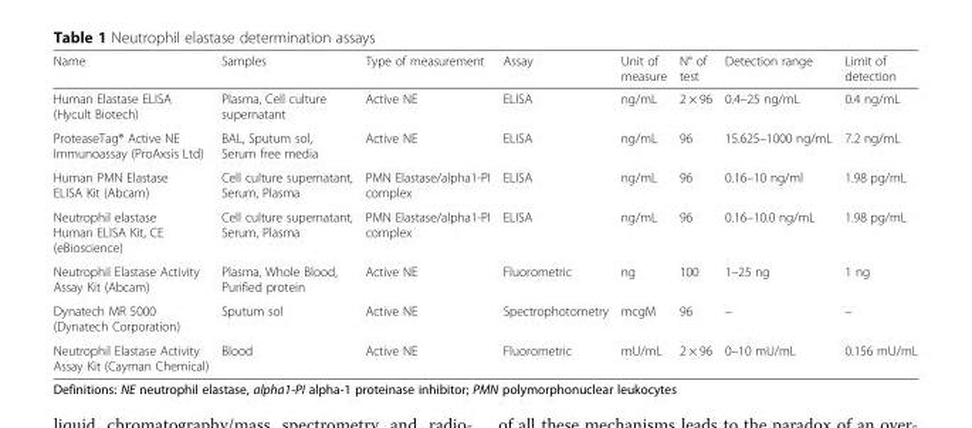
<table><thead><tr><td>Name</td><td>Samples</td><td>Type of measurement</td><td>Assay</td><td>Unit of measure</td><td>N° of test</td><td>Detection range</td><td>Limit of detection</td></tr></thead><tbody><tr><td>Human Elastase ELISA (Hycult Biotech)</td><td>Plasma, Cell culture supernatant</td><td>Active NE</td><td>ELISA</td><td>ng/mL</td><td>2 × 96</td><td>0.4–25 ng/mL</td><td>0.4 ng/mL</td></tr><tr><td>ProteaseTag® Active NE Immunoassay (ProAxsis Ltd)</td><td>BAL, Sputum sol, Serum free media</td><td>Active NE</td><td>ELISA</td><td>ng/mL</td><td>96</td><td>15.625–1000 ng/mL</td><td>7.2 ng/mL</td></tr><tr><td>Human PMN Elastase ELISA Kit (Abcam)</td><td>Cell culture supernatant, Serum, Plasma</td><td>PMN Elastase/alpha1-PI complex</td><td>ELISA</td><td>ng/mL</td><td>96</td><td>0.16–10 ng/ml</td><td>1.98 pg/mL</td></tr><tr><td>Neutrophil elastase Human ELISA Kit, CE (eBioscience)</td><td>Cell culture supernatant, Serum, Plasma</td><td>PMN Elastase/alpha1-PI complex</td><td>ELISA</td><td>ng/mL</td><td>96</td><td>0.16–10.0 ng/mL</td><td>1.98 pg/mL</td></tr><tr><td>Neutrophil Elastase Activity Assay Kit (Abcam)</td><td>Plasma, Whole Blood, Purified protein</td><td>Active NE</td><td>Fluorometric</td><td>ng</td><td>100</td><td>1–25 ng</td><td>1 ng</td></tr><tr><td>Dynatech MR 5000 (Dynatech Corporation)</td><td>Sputum sol</td><td>Active NE</td><td>Spectrophotometry</td><td>mcgM</td><td>96</td><td>–</td><td>–</td></tr><tr><td>Neutrophil Elastase Activity Assay Kit (Cayman Chemical)</td><td>Blood</td><td>Active NE</td><td>Fluorometric</td><td>mU/mL</td><td>2 × 96</td><td>0–10 mU/mL</td><td>0.156 mU/mL</td></tr></tbody></table>